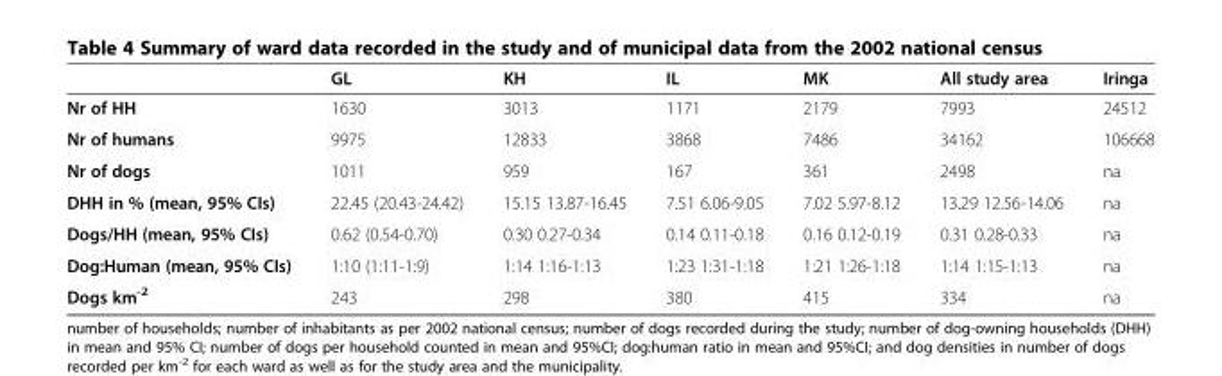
<table><thead><tr><td></td><td>GL</td><td>KH</td><td>IL</td><td>MK</td><td>All study area</td><td>Iringa</td></tr></thead><tbody><tr><td>Nr of HH</td><td>1630</td><td>3013</td><td>1171</td><td>2179</td><td>7993</td><td>24512</td></tr><tr><td>Nr of humans</td><td>9975</td><td>12833</td><td>3868</td><td>7486</td><td>34162</td><td>106668</td></tr><tr><td>Nr of dogs</td><td>1011</td><td>959</td><td>167</td><td>361</td><td>2498</td><td>na</td></tr><tr><td>DHH in % (mean, 95% CIs)</td><td>22.45 (20.43-24.42)</td><td>15.15 13.87-16.45</td><td>7.51 6.06-9.05</td><td>7.02 5.97-8.12</td><td>13.29 12.56-14.06</td><td>na</td></tr><tr><td>Dogs/HH (mean, 95% CIs)</td><td>0.62 (0.54-0.70)</td><td>0.30 0.27-0.34</td><td>0.14 0.11-0.18</td><td>0.16 0.12-0.19</td><td>0.31 0.28-0.33</td><td>na</td></tr><tr><td>Dog:Human (mean, 95% CIs)</td><td>1:10 (1:11-1:9)</td><td>1:14 1:16-1:13</td><td>1:23 1:31-1:18</td><td>1:21 1:26-1:18</td><td>1:14 1:15-1:13</td><td>na</td></tr><tr><td>Dogs km<sup>-2</sup></td><td>243</td><td>298</td><td>380</td><td>415</td><td>334</td><td>na</td></tr></tbody></table>